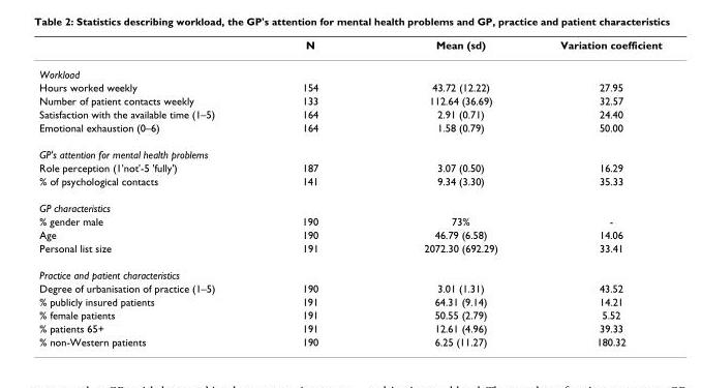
<table><thead><tr><td></td><td>N</td><td>Mean (sd)</td><td>Variation coefficient</td></tr></thead><tbody><tr><td colspan="4">Workload</td></tr><tr><td>Hours worked weekly</td><td>154</td><td>43.72 (12.22)</td><td>27.95</td></tr><tr><td>Number of patient contacts weekly</td><td>133</td><td>112.64 (36.69)</td><td>32.57</td></tr><tr><td>Satisfaction with the available time (1–5)</td><td>164</td><td>2.91 (0.71)</td><td>24.40</td></tr><tr><td>Emotional exhaustion (0–6)</td><td>164</td><td>1.58 (0.79)</td><td>50.00</td></tr><tr><td colspan="4">GP&#x27;s attention for mental health problems</td></tr><tr><td>Role perception (1&#x27;not&#x27;-5 &#x27;fully&#x27;)</td><td>187</td><td>3.07 (0.50)</td><td>16.29</td></tr><tr><td>% of psychological contacts</td><td>141</td><td>9.34 (3.30)</td><td>35.33</td></tr><tr><td colspan="4">GP characteristics</td></tr><tr><td>% gender male</td><td>190</td><td>73%</td><td>-</td></tr><tr><td>Age</td><td>190</td><td>46.79 (6.58)</td><td>14.06</td></tr><tr><td>Personal list size</td><td>191</td><td>2072.30 (692.29)</td><td>33.41</td></tr><tr><td colspan="4">Practice and patient characteristics</td></tr><tr><td>Degree of urbanisation of practice (1–5)</td><td>190</td><td>3.01 (1.31)</td><td>43.52</td></tr><tr><td>% publicly insured patients</td><td>191</td><td>64.31 (9.14)</td><td>14.21</td></tr><tr><td>% female patients</td><td>191</td><td>50.55 (2.79)</td><td>5.52</td></tr><tr><td>% patients 65+</td><td>191</td><td>12.61 (4.96)</td><td>39.33</td></tr><tr><td>% non-Western patients</td><td>190</td><td>6.25 (11.27)</td><td>180.32</td></tr></tbody></table>